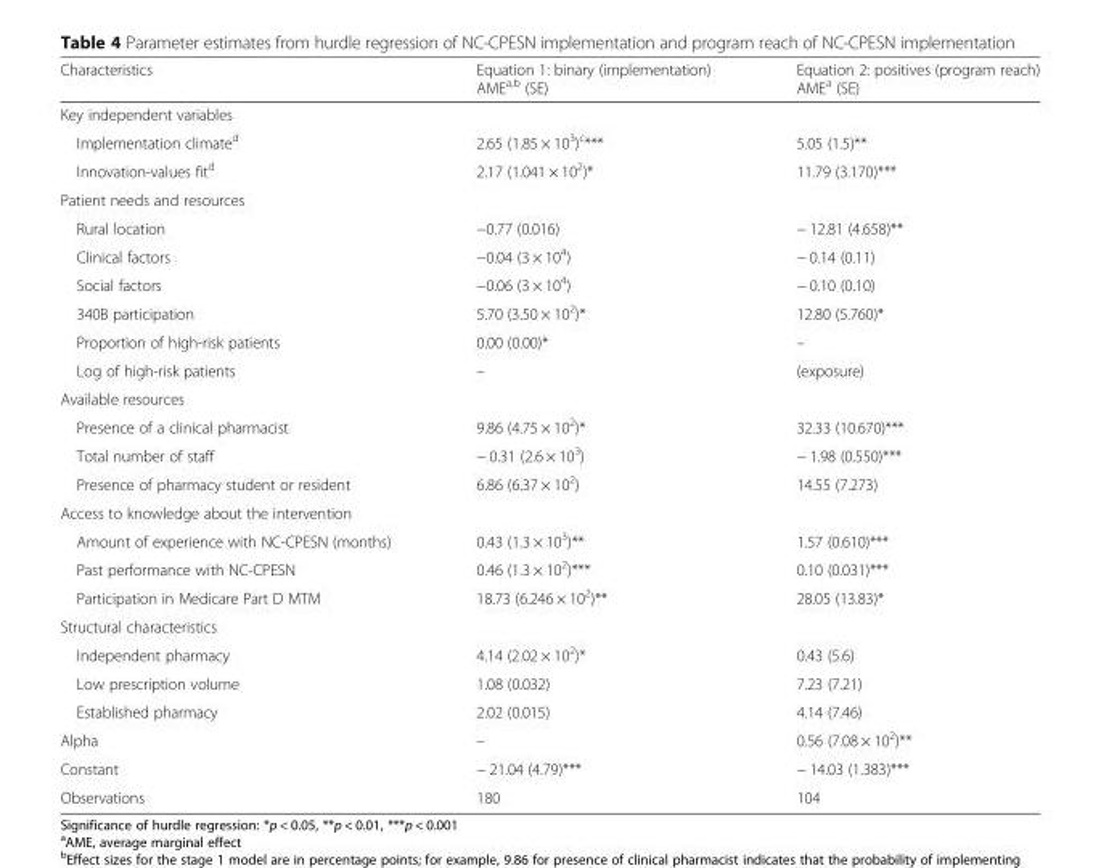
<table><thead><tr><td>Characteristics</td><td>Equation 1: binary (implementation) AME<sup>a,b</sup> (SE)</td><td>Equation 2: positives (program reach) AME<sup>a</sup> (SE)</td></tr></thead><tbody><tr><td colspan="3">Key independent variables</td></tr><tr><td>Implementation climate<sup>d</sup></td><td>2.65 (1.85 × 10<sup>3</sup>)<sup>c</sup>***</td><td>5.05 (1.5)**</td></tr><tr><td>Innovation-values fit<sup>d</sup></td><td>2.17 (1.041 × 10<sup>2</sup>)*</td><td>11.79 (3.170)***</td></tr><tr><td colspan="3">Patient needs and resources</td></tr><tr><td>Rural location</td><td>−0.77 (0.016)</td><td>− 12.81 (4.658)**</td></tr><tr><td>Clinical factors</td><td>−0.04 (3 × 10<sup>4</sup>)</td><td>− 0.14 (0.11)</td></tr><tr><td>Social factors</td><td>−0.06 (3 × 10<sup>4</sup>)</td><td>− 0.10 (0.10)</td></tr><tr><td>340B participation</td><td>5.70 (3.50 × 10<sup>2</sup>)*</td><td>12.80 (5.760)*</td></tr><tr><td>Proportion of high-risk patients</td><td>0.00 (0.00)*</td><td>–</td></tr><tr><td>Log of high-risk patients</td><td>–</td><td>(exposure)</td></tr><tr><td colspan="3">Available resources</td></tr><tr><td>Presence of a clinical pharmacist</td><td>9.86 (4.75 × 10<sup>2</sup>)*</td><td>32.33 (10.670)***</td></tr><tr><td>Total number of staff</td><td>− 0.31 (2.6 × 10<sup>3</sup>)</td><td>− 1.98 (0.550)***</td></tr><tr><td>Presence of pharmacy student or resident</td><td>6.86 (6.37 × 10<sup>2</sup>)</td><td>14.55 (7.273)</td></tr><tr><td colspan="3">Access to knowledge about the intervention</td></tr><tr><td>Amount of experience with NC-CPESN (months)</td><td>0.43 (1.3 × 10<sup>3</sup>)**</td><td>1.57 (0.610)***</td></tr><tr><td>Past performance with NC-CPESN</td><td>0.46 (1.3 × 10<sup>2</sup>)***</td><td>0.10 (0.031)***</td></tr><tr><td>Participation in Medicare Part D MTM</td><td>18.73 (6.246 × 10<sup>2</sup>)**</td><td>28.05 (13.83)*</td></tr><tr><td colspan="3">Structural characteristics</td></tr><tr><td>Independent pharmacy</td><td>4.14 (2.02 × 10<sup>2</sup>)*</td><td>0.43 (5.6)</td></tr><tr><td>Low prescription volume</td><td>1.08 (0.032)</td><td>7.23 (7.21)</td></tr><tr><td>Established pharmacy</td><td>2.02 (0.015)</td><td>4.14 (7.46)</td></tr><tr><td>Alpha</td><td>–</td><td>0.56 (7.08 × 10<sup>2</sup>)**</td></tr><tr><td>Constant</td><td>− 21.04 (4.79)***</td><td>− 14.03 (1.383)***</td></tr><tr><td>Observations</td><td>180</td><td>104</td></tr></tbody></table>